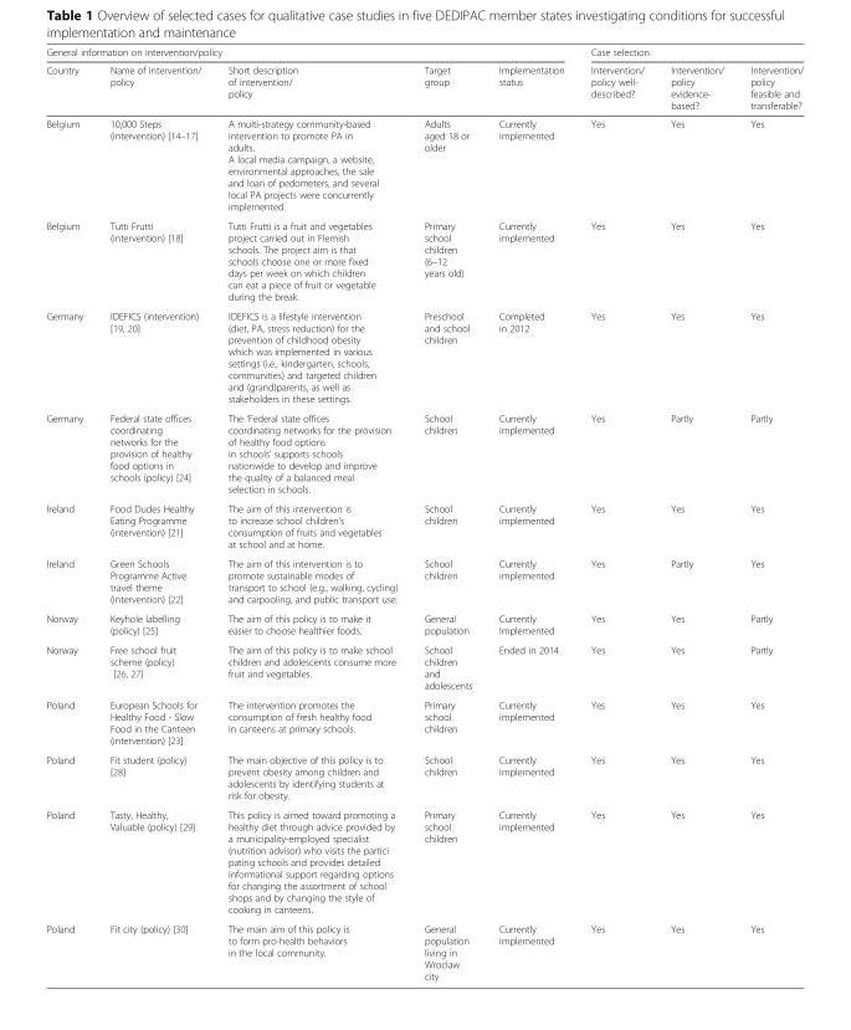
<table><thead><tr><td colspan="5">General information on intervention/policy</td><td colspan="3">Case selection</td></tr><tr><td>Country</td><td>Name of intervention/ policy</td><td>Short description of intervention/ policy</td><td>Target group</td><td>Implementation status</td><td>Intervention/ policy well- described?</td><td>Intervention/ policy evidence- based?</td><td>Intervention/ policy feasible and transferable?</td></tr></thead><tbody><tr><td>Belgium</td><td>10,000 Steps (intervention) [14–17]</td><td>A multi-strategy community-based intervention to promote PA in adults. A local media campaign, a website, environmental approaches, the sale and loan of pedometers, and several local PA projects were concurrently implemented.</td><td>Adults aged 18 or older</td><td>Currently implemented</td><td>Yes</td><td>Yes</td><td>Yes</td></tr><tr><td>Belgium</td><td>Tutti Frutti (intervention) [18]</td><td>Tutti Frutti is a fruit and vegetables project carried out in Flemish schools. The project aim is that schools choose one or more fixed days per week on which children can eat a piece of fruit or vegetable during the break.</td><td>Primary school children (6–12 years old)</td><td>Currently implemented</td><td>Yes</td><td>Yes</td><td>Yes</td></tr><tr><td>Germany</td><td>IDEFICS (intervention) [19, 20]</td><td>IDEFICS is a lifestyle intervention (diet, PA, stress reduction) for the prevention of childhood obesity which was implemented in various settings (i.e., kindergarten, schools, communities) and targeted children and (grand)parents, as well as stakeholders in these settings.</td><td>Preschool and school children</td><td>Completed in 2012</td><td>Yes</td><td>Yes</td><td>Yes</td></tr><tr><td>Germany</td><td>Federal state offices coordinating networks for the provision of healthy food options in schools (policy) [24]</td><td>The ‘Federal state offices coordinating networks for the provision of healthy food options in schools’ supports schools nationwide to develop and improve the quality of a balanced meal selection in schools.</td><td>School children</td><td>Currently implemented</td><td>Yes</td><td>Partly</td><td>Partly</td></tr><tr><td>Ireland</td><td>Food Dudes Healthy Eating Programme (intervention) [21]</td><td>The aim of this intervention is to increase school children’s consumption of fruits and vegetables at school and at home.</td><td>School children</td><td>Currently implemented</td><td>Yes</td><td>Yes</td><td>Yes</td></tr><tr><td>Ireland</td><td>Green Schools Programme Active travel theme (intervention) [22]</td><td>The aim of this intervention is to promote sustainable modes of transport to school (e.g., walking, cycling) and carpooling, and public transport use.</td><td>School children</td><td>Currently implemented</td><td>Yes</td><td>Partly</td><td>Yes</td></tr><tr><td>Norway</td><td>Keyhole labelling (policy) [25]</td><td>The aim of this policy is to make it easier to choose healthier foods.</td><td>General population</td><td>Currently Implemented</td><td>Yes</td><td>Yes</td><td>Partly</td></tr><tr><td>Norway</td><td>Free school fruit scheme (policy) [26, 27]</td><td>The aim of this policy is to make school children and adolescents consume more fruit and vegetables.</td><td>School children and adolescents</td><td>Ended in 2014</td><td>Yes</td><td>Yes</td><td>Partly</td></tr><tr><td>Poland</td><td>European Schools for Healthy Food - Slow Food in the Canteen (intervention) [23]</td><td>The intervention promotes the consumption of fresh healthy food in canteens at primary schools.</td><td>Primary school children</td><td>Currently implemented</td><td>Yes</td><td>Yes</td><td>Yes</td></tr><tr><td>Poland</td><td>Fit student (policy) [28]</td><td>The main objective of this policy is to prevent obesity among children and adolescents by identifying students at risk for obesity.</td><td>School children</td><td>Currently implemented</td><td>Yes</td><td>Yes</td><td>Yes</td></tr><tr><td>Poland</td><td>Tasty, Healthy, Valuable (policy) [29]</td><td>This policy is aimed toward promoting a healthy diet through advice provided by a municipality-employed specialist (nutrition advisor) who visits the partici pating schools and provides detailed informational support regarding options for changing the assortment of school shops and by changing the style of cooking in canteens.</td><td>Primary school children</td><td>Currently implemented</td><td>Yes</td><td>Yes</td><td>Yes</td></tr><tr><td>Poland</td><td>Fit city (policy) [30]</td><td>The main aim of this policy is to form pro-health behaviors in the local community.</td><td>General population living in Wroclaw city</td><td>Currently implemented</td><td>Yes</td><td>Yes</td><td>Yes</td></tr></tbody></table>